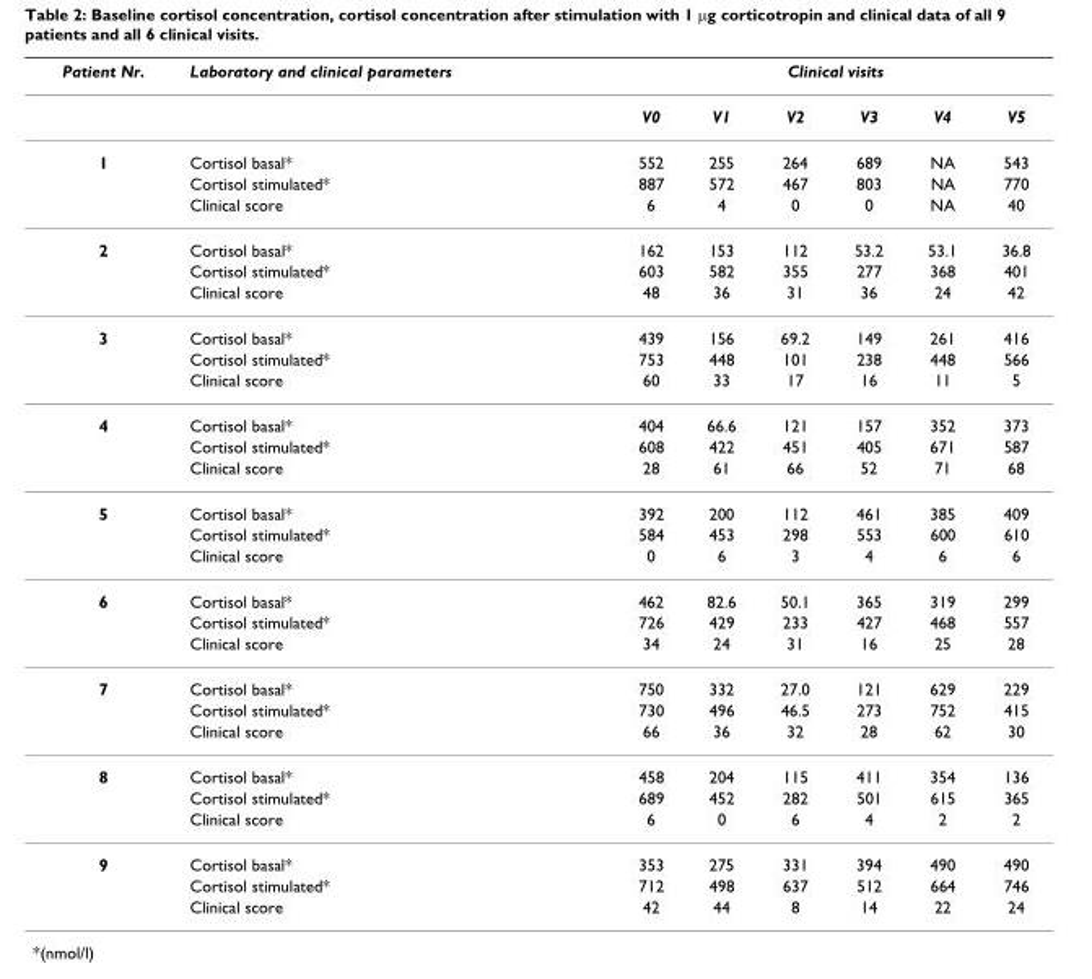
<table><thead><tr><td rowspan="2">Patient Nr.</td><td rowspan="2">Laboratory and clinical parameters</td><td colspan="6">Clinical visits</td></tr><tr><td>V0</td><td>V1</td><td>V2</td><td>V3</td><td>V4</td><td>V5</td></tr></thead><tbody><tr><td rowspan="3">1</td><td>Cortisol basal*</td><td>552</td><td>255</td><td>264</td><td>689</td><td>NA</td><td>543</td></tr><tr><td>Cortisol stimulated*</td><td>887</td><td>572</td><td>467</td><td>803</td><td>NA</td><td>770</td></tr><tr><td>Clinical score</td><td>6</td><td>4</td><td>0</td><td>0</td><td>NA</td><td>40</td></tr><tr><td rowspan="3">2</td><td>Cortisol basal*</td><td>162</td><td>153</td><td>112</td><td>53.2</td><td>53.1</td><td>36.8</td></tr><tr><td>Cortisol stimulated*</td><td>603</td><td>582</td><td>355</td><td>277</td><td>368</td><td>401</td></tr><tr><td>Clinical score</td><td>48</td><td>36</td><td>31</td><td>36</td><td>24</td><td>42</td></tr><tr><td rowspan="3">3</td><td>Cortisol basal*</td><td>439</td><td>156</td><td>69.2</td><td>149</td><td>261</td><td>416</td></tr><tr><td>Cortisol stimulated*</td><td>753</td><td>448</td><td>101</td><td>238</td><td>448</td><td>566</td></tr><tr><td>Clinical score</td><td>60</td><td>33</td><td>17</td><td>16</td><td>11</td><td>5</td></tr><tr><td rowspan="3">4</td><td>Cortisol basal*</td><td>404</td><td>66.6</td><td>121</td><td>157</td><td>352</td><td>373</td></tr><tr><td>Cortisol stimulated*</td><td>608</td><td>422</td><td>451</td><td>405</td><td>671</td><td>587</td></tr><tr><td>Clinical score</td><td>28</td><td>61</td><td>66</td><td>52</td><td>71</td><td>68</td></tr><tr><td rowspan="3">5</td><td>Cortisol basal*</td><td>392</td><td>200</td><td>112</td><td>461</td><td>385</td><td>409</td></tr><tr><td>Cortisol stimulated*</td><td>584</td><td>453</td><td>298</td><td>553</td><td>600</td><td>610</td></tr><tr><td>Clinical score</td><td>0</td><td>6</td><td>3</td><td>4</td><td>6</td><td>6</td></tr><tr><td rowspan="3">6</td><td>Cortisol basal*</td><td>462</td><td>82.6</td><td>50.1</td><td>365</td><td>319</td><td>299</td></tr><tr><td>Cortisol stimulated*</td><td>726</td><td>429</td><td>233</td><td>427</td><td>468</td><td>557</td></tr><tr><td>Clinical score</td><td>34</td><td>24</td><td>31</td><td>16</td><td>25</td><td>28</td></tr><tr><td rowspan="3">7</td><td>Cortisol basal*</td><td>750</td><td>332</td><td>27.0</td><td>121</td><td>629</td><td>229</td></tr><tr><td>Cortisol stimulated*</td><td>730</td><td>496</td><td>46.5</td><td>273</td><td>752</td><td>415</td></tr><tr><td>Clinical score</td><td>66</td><td>36</td><td>32</td><td>28</td><td>62</td><td>30</td></tr><tr><td rowspan="3">8</td><td>Cortisol basal*</td><td>458</td><td>204</td><td>115</td><td>411</td><td>354</td><td>136</td></tr><tr><td>Cortisol stimulated*</td><td>689</td><td>452</td><td>282</td><td>501</td><td>615</td><td>365</td></tr><tr><td>Clinical score</td><td>6</td><td>0</td><td>6</td><td>4</td><td>2</td><td>2</td></tr><tr><td rowspan="3">9</td><td>Cortisol basal*</td><td>353</td><td>275</td><td>331</td><td>394</td><td>490</td><td>490</td></tr><tr><td>Cortisol stimulated*</td><td>712</td><td>498</td><td>637</td><td>512</td><td>664</td><td>746</td></tr><tr><td>Clinical score</td><td>42</td><td>44</td><td>8</td><td>14</td><td>22</td><td>24</td></tr></tbody></table>